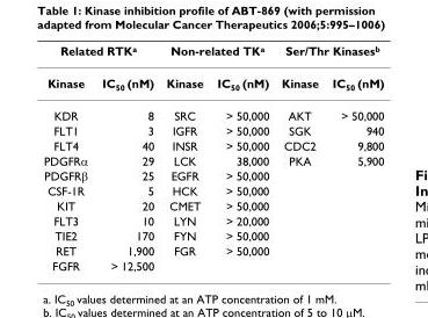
<table><thead><tr><td colspan="2">Related RTK<sup>a</sup></td><td colspan="2">Non-related TK<sup>a</sup></td><td colspan="2">Ser/Thr Kinases<sup>b</sup></td></tr><tr><td>Kinase</td><td>IC<sub>50</sub> (nM)</td><td>Kinase</td><td>IC<sub>50</sub> (nM)</td><td>Kinase</td><td>IC<sub>50</sub> (nM)</td></tr></thead><tbody><tr><td>KDR</td><td>8</td><td>SRC</td><td>&gt; 50,000</td><td>AKT</td><td>&gt; 50,000</td></tr><tr><td>FLT1</td><td>3</td><td>IGFR</td><td>&gt; 50,000</td><td>SGK</td><td>940</td></tr><tr><td>FLT4</td><td>40</td><td>INSR</td><td>&gt; 50,000</td><td>CDC2</td><td>9,800</td></tr><tr><td>PDGFRα</td><td>29</td><td>LCK</td><td>38,000</td><td>PKA</td><td>5,900</td></tr><tr><td>PDGFRβ</td><td>25</td><td>EGFR</td><td>&gt; 50,000</td><td></td><td></td></tr><tr><td>CSF-1R</td><td>5</td><td>HCK</td><td>&gt; 50,000</td><td></td><td></td></tr><tr><td>KIT</td><td>20</td><td>CMET</td><td>&gt; 50,000</td><td></td><td></td></tr><tr><td>FLT3</td><td>10</td><td>LYN</td><td>&gt; 20,000</td><td></td><td></td></tr><tr><td>TIE2</td><td>170</td><td>FYN</td><td>&gt; 50,000</td><td></td><td></td></tr><tr><td>RET</td><td>1,900</td><td>FGR</td><td>&gt; 50,000</td><td></td><td></td></tr><tr><td>FGFR</td><td>&gt; 12,500</td><td></td><td></td><td></td><td></td></tr></tbody></table>